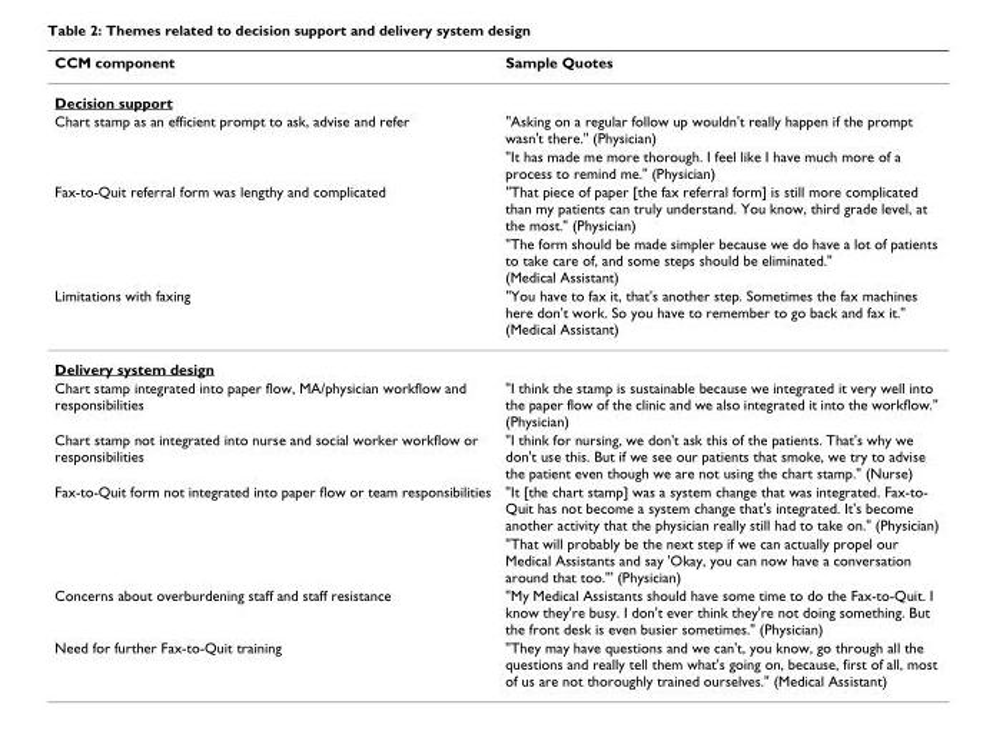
<table><thead><tr><td>CCM component</td><td>Sample Quotes</td></tr></thead><tbody><tr><td colspan="2">Decision support</td></tr><tr><td rowspan="2">Chart stamp as an efficient prompt to ask, advise and refer</td><td>&quot;Asking on a regular follow up wouldn&#x27;t really happen if the prompt wasn&#x27;t there.&quot; (Physician)</td></tr><tr><td>&quot;It has made me more thorough. I feel like I have much more of a process to remind me.&quot; (Physician)</td></tr><tr><td rowspan="2">Fax-to-Quit referral form was lengthy and complicated</td><td>&quot;That piece of paper [the fax referral form] is still more complicated than my patients can truly understand. You know, third grade level, at the most.&quot; (Physician)</td></tr><tr><td>&quot;The form should be made simpler because we do have a lot of patients to take care of, and some steps should be eliminated.&quot; (Medical Assistant)</td></tr><tr><td>Limitations with faxing</td><td>&quot;You have to fax it, that&#x27;s another step. Sometimes the fax machines here don&#x27;t work. So you have to remember to go back and fax it.&quot; (Medical Assistant)</td></tr><tr><td colspan="2">Delivery system design</td></tr><tr><td>Chart stamp integrated into paper flow, MA/physician workflow and responsibilities</td><td>&quot;I think the stamp is sustainable because we integrated it very well into the paper flow of the clinic and we also integrated it into the workflow.&quot; (Physician)</td></tr><tr><td>Chart stamp not integrated into nurse and social worker workflow or responsibilities</td><td>&quot;I think for nursing, we don&#x27;t ask this of the patients. That&#x27;s why we don&#x27;t use this. But if we see our patients that smoke, we try to advise the patient even though we are not using the chart stamp.&quot; (Nurse)</td></tr><tr><td rowspan="2">Fax-to-Quit form not integrated into paper flow or team responsibilities</td><td>&quot;It [the chart stamp] was a system change that was integrated. Fax-to- Quit has not become a system change that&#x27;s integrated. It&#x27;s become another activity that the physician really still had to take on.&quot; (Physician)</td></tr><tr><td>&quot;That will probably be the next step if we can actually propel our Medical Assistants and say &#x27;Okay, you can now have a conversation around that too.&quot;&#x27; (Physician)</td></tr><tr><td>Concerns about overburdening staff and staff resistance</td><td>&quot;My Medical Assistants should have some time to do the Fax-to-Quit. I know they&#x27;re busy. I don&#x27;t ever think they&#x27;re not doing something. But the front desk is even busier sometimes.&quot; (Physician)</td></tr><tr><td>Need for further Fax-to-Quit training</td><td>&quot;They may have questions and we can&#x27;t, you know, go through all the questions and really tell them what&#x27;s going on, because, first of all, most of us are not thoroughly trained ourselves.&quot; (Medical Assistant)</td></tr></tbody></table>